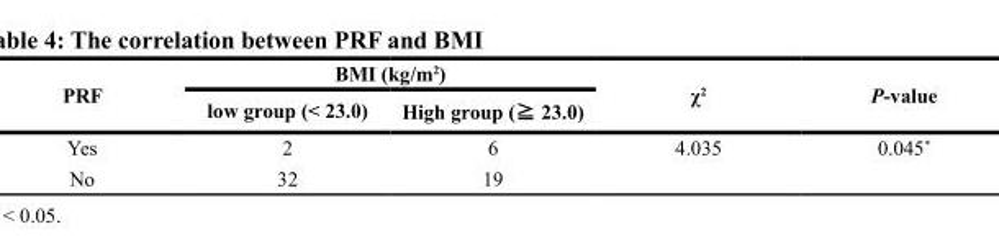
<table><thead><tr><td rowspan="2">PRF</td><td colspan="2">BMI (kg/m<sup>2</sup>)</td><td rowspan="2">χ<sup>2</sup></td><td rowspan="2">P-value</td></tr><tr><td>low group (&lt; 23.0)</td><td>High group (≧ 23.0)</td></tr></thead><tbody><tr><td>Yes</td><td>2</td><td>6</td><td>4.035</td><td>0.045*</td></tr><tr><td>No</td><td>32</td><td>19</td><td></td><td></td></tr></tbody></table>